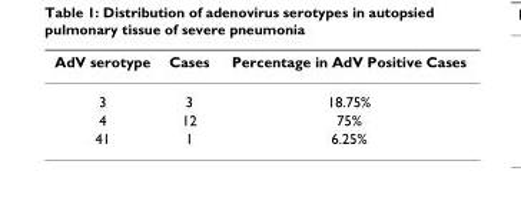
<table><thead><tr><td>AdV serotype</td><td>Cases</td><td>Percentage in AdV Positive Cases</td></tr></thead><tbody><tr><td>3</td><td>3</td><td>18.75%</td></tr><tr><td>4</td><td>12</td><td>75%</td></tr><tr><td>41</td><td>1</td><td>6.25%</td></tr></tbody></table>